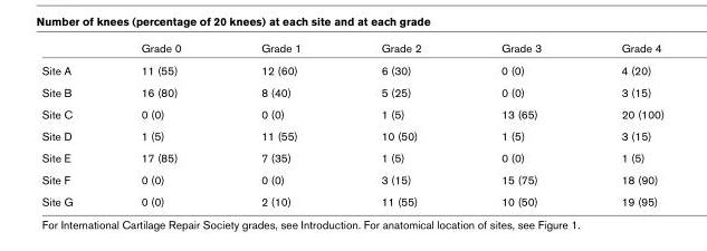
<table><thead><tr><td></td><td>Grade 0</td><td>Grade 1</td><td>Grade 2</td><td>Grade 3</td><td>Grade 4</td></tr></thead><tbody><tr><td>Site A</td><td>11 (55)</td><td>12 (60)</td><td>6 (30)</td><td>0 (0)</td><td>4 (20)</td></tr><tr><td>Site B</td><td>16 (80)</td><td>8 (40)</td><td>5 (25)</td><td>0 (0)</td><td>3 (15)</td></tr><tr><td>Site C</td><td>0 (0)</td><td>0 (0)</td><td>1 (5)</td><td>13 (65)</td><td>20 (100)</td></tr><tr><td>Site D</td><td>1 (5)</td><td>11 (55)</td><td>10 (50)</td><td>1 (5)</td><td>3 (15)</td></tr><tr><td>Site E</td><td>17 (85)</td><td>7 (35)</td><td>1 (5)</td><td>0 (0)</td><td>1 (5)</td></tr><tr><td>Site F</td><td>0 (0)</td><td>0 (0)</td><td>3 (15)</td><td>15 (75)</td><td>18 (90)</td></tr><tr><td>Site G</td><td>0 (0)</td><td>2 (10)</td><td>11 (55)</td><td>10 (50)</td><td>19 (95)</td></tr></tbody></table>